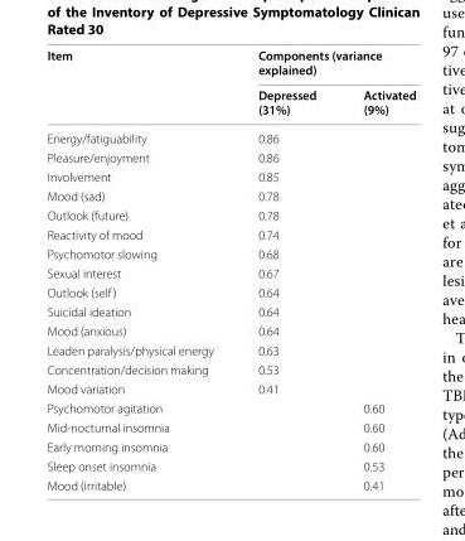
<table><thead><tr><td rowspan="2">Item</td><td colspan="2">Components (variance explained)</td></tr><tr><td>Depressed (31%)</td><td>Activated (9%)</td></tr></thead><tbody><tr><td>Energy/fatiguability</td><td>0.86</td><td></td></tr><tr><td>Pleasure/enjoyment</td><td>0.86</td><td></td></tr><tr><td>Involvement</td><td>0.85</td><td></td></tr><tr><td>Mood (sad)</td><td>0.78</td><td></td></tr><tr><td>Outlook (future)</td><td>0.78</td><td></td></tr><tr><td>Reactivity of mood</td><td>0.74</td><td></td></tr><tr><td>Psychomotor slowing</td><td>0.68</td><td></td></tr><tr><td>Sexual interest</td><td>0.67</td><td></td></tr><tr><td>Outlook (self)</td><td>0.64</td><td></td></tr><tr><td>Suicidal ideation</td><td>0.64</td><td></td></tr><tr><td>Mood (anxious)</td><td>0.64</td><td></td></tr><tr><td>Leaden paralysis/physical energy</td><td>0.63</td><td></td></tr><tr><td>Concentration/decision making</td><td>0.53</td><td></td></tr><tr><td>Mood variation</td><td>0.41</td><td></td></tr><tr><td>Psychomotor agitation</td><td></td><td>0.60</td></tr><tr><td>Mid-nocturnal insomnia</td><td></td><td>0.60</td></tr><tr><td>Early morning insomnia</td><td></td><td>0.60</td></tr><tr><td>Sleep onset insomnia</td><td></td><td>0.53</td></tr><tr><td>Mood (irritable)</td><td></td><td>0.41</td></tr></tbody></table>